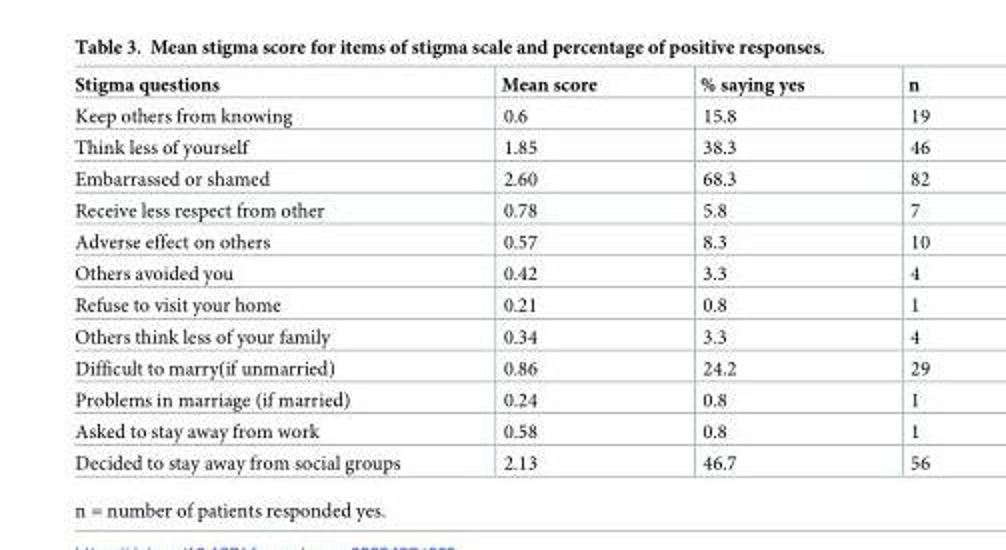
<table><thead><tr><td>Stigma questions</td><td>Mean score</td><td>% saying yes</td><td>n</td></tr></thead><tbody><tr><td>Keep others from knowing</td><td>0.6</td><td>15.8</td><td>19</td></tr><tr><td>Think less of yourself</td><td>1.85</td><td>38.3</td><td>46</td></tr><tr><td>Embarrassed or shamed</td><td>2.60</td><td>68.3</td><td>82</td></tr><tr><td>Receive less respect from other</td><td>0.78</td><td>5.8</td><td>7</td></tr><tr><td>Adverse effect on others</td><td>0.57</td><td>8.3</td><td>10</td></tr><tr><td>Others avoided you</td><td>0.42</td><td>3.3</td><td>4</td></tr><tr><td>Refuse to visit your home</td><td>0.21</td><td>0.8</td><td>1</td></tr><tr><td>Others think less of your family</td><td>0.34</td><td>3.3</td><td>4</td></tr><tr><td>Difficult to marry(if unmarried)</td><td>0.86</td><td>24.2</td><td>29</td></tr><tr><td>Problems in marriage (if married)</td><td>0.24</td><td>0.8</td><td>1</td></tr><tr><td>Asked to stay away from work</td><td>0.58</td><td>0.8</td><td>1</td></tr><tr><td>Decided to stay away from social groups</td><td>2.13</td><td>46.7</td><td>56</td></tr></tbody></table>